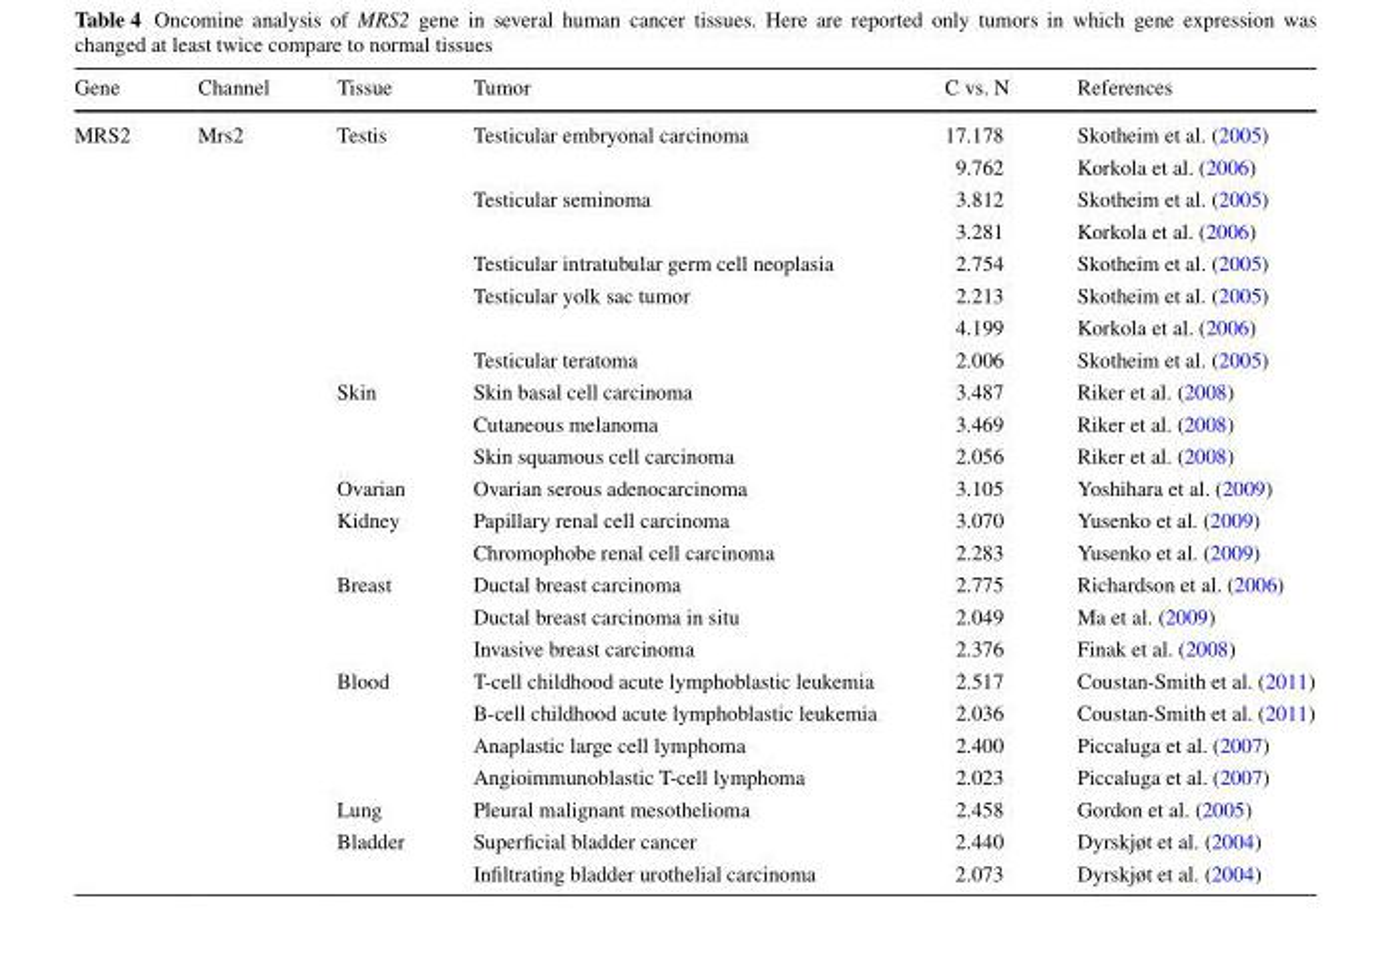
<table><thead><tr><td>Gene</td><td>Channel</td><td>Tissue</td><td>Tumor</td><td>C vs. N</td><td>References</td></tr></thead><tbody><tr><td rowspan="24">MRS2</td><td rowspan="24">Mrs2</td><td rowspan="8">Testis</td><td rowspan="2">Testicular embryonal carcinoma</td><td>17.178</td><td>Skotheim et al. (2005)</td></tr><tr><td>9.762</td><td>Korkola et al. (2006)</td></tr><tr><td rowspan="2">Testicular seminoma</td><td>3.812</td><td>Skotheim et al. (2005)</td></tr><tr><td>3.281</td><td>Korkola et al. (2006)</td></tr><tr><td>Testicular intratubular germ cell neoplasia</td><td>2.754</td><td>Skotheim et al. (2005)</td></tr><tr><td rowspan="2">Testicular yolk sac tumor</td><td>2.213</td><td>Skotheim et al. (2005)</td></tr><tr><td>4.199</td><td>Korkola et al. (2006)</td></tr><tr><td>Testicular teratoma</td><td>2.006</td><td>Skotheim et al. (2005)</td></tr><tr><td rowspan="3">Skin</td><td>Skin basal cell carcinoma</td><td>3.487</td><td>Riker et al. (2008)</td></tr><tr><td>Cutaneous melanoma</td><td>3.469</td><td>Riker et al. (2008)</td></tr><tr><td>Skin squamous cell carcinoma</td><td>2.056</td><td>Riker et al. (2008)</td></tr><tr><td>Ovarian</td><td>Ovarian serous adenocarcinoma</td><td>3.105</td><td>Yoshihara et al. (2009)</td></tr><tr><td rowspan="2">Kidney</td><td>Papillary renal cell carcinoma</td><td>3.070</td><td>Yusenko et al. (2009)</td></tr><tr><td>Chromophobe renal cell carcinoma</td><td>2.283</td><td>Yusenko et al. (2009)</td></tr><tr><td rowspan="3">Breast</td><td>Ductal breast carcinoma</td><td>2.775</td><td>Richardson et al. (2006)</td></tr><tr><td>Ductal breast carcinoma in situ</td><td>2.049</td><td>Ma et al. (2009)</td></tr><tr><td>Invasive breast carcinoma</td><td>2.376</td><td>Finak et al. (2008)</td></tr><tr><td rowspan="4">Blood</td><td>T-cell childhood acute lymphoblastic leukemia</td><td>2.517</td><td>Coustan-Smith et al. (2011)</td></tr><tr><td>B-cell childhood acute lymphoblastic leukemia</td><td>2.036</td><td>Coustan-Smith et al. (2011)</td></tr><tr><td>Anaplastic large cell lymphoma</td><td>2.400</td><td>Piccaluga et al. (2007)</td></tr><tr><td>Angioimmunoblastic T-cell lymphoma</td><td>2.023</td><td>Piccaluga et al. (2007)</td></tr><tr><td>Lung</td><td>Pleural malignant mesothelioma</td><td>2.458</td><td>Gordon et al. (2005)</td></tr><tr><td rowspan="2">Bladder</td><td>Superficial bladder cancer</td><td>2.440</td><td>Dyrskjøt et al. (2004)</td></tr><tr><td>Infiltrating bladder urothelial carcinoma</td><td>2.073</td><td>Dyrskjøt et al. (2004)</td></tr></tbody></table>